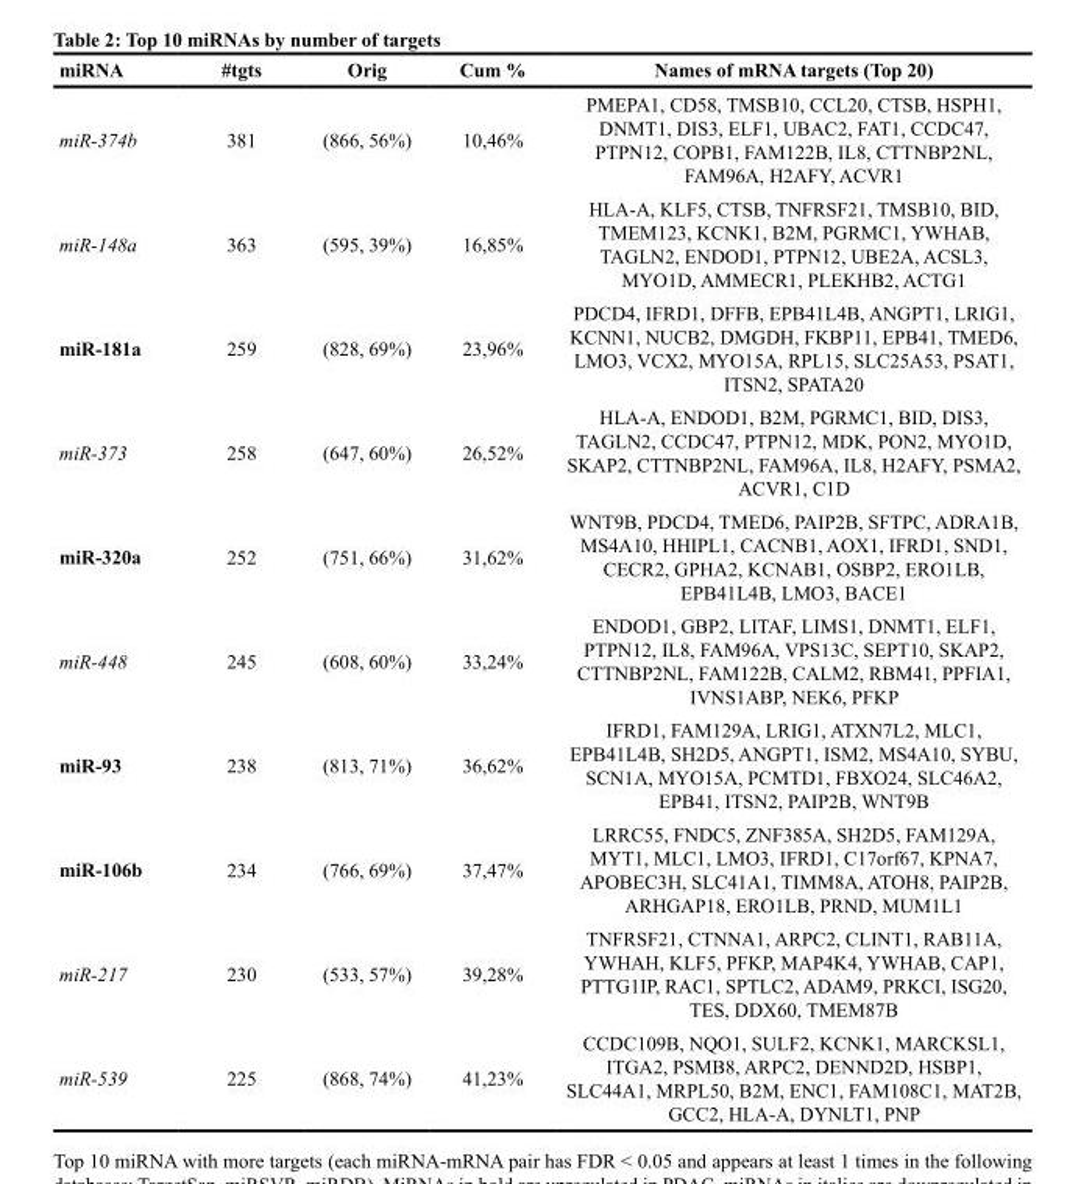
<table><thead><tr><td>miRNA</td><td>#tgts</td><td>Orig</td><td>Cum %</td><td>Names of mRNA targets (Top 20)</td></tr></thead><tbody><tr><td>miR-374b</td><td>381</td><td>(866, 56%)</td><td>10,46%</td><td>PMEPA1, CD58, TMSB10, CCL20, CTSB, HSPH1, DNMT1, DIS3, ELF1, UBAC2, FAT1, CCDC47, PTPN12, COPB1, FAM122B, IL8, CTTNBP2NL, FAM96A, H2AFY, ACVR1</td></tr><tr><td>miR-148a</td><td>363</td><td>(595, 39%)</td><td>16,85%</td><td>HLA-A, KLF5, CTSB, TNFRSF21, TMSB10, BID, TMEM123, KCNK1, B2M, PGRMC1, YWHAB, TAGLN2, ENDOD1, PTPN12, UBE2A, ACSL3, MYO1D, AMMECR1, PLEKHB2, ACTG1</td></tr><tr><td>miR-181a</td><td>259</td><td>(828, 69%)</td><td>23,96%</td><td>PDCD4, IFRD1, DFFB, EPB41L4B, ANGPT1, LRIG1, KCNN1, NUCB2, DMGDH, FKBP11, EPB41, TMED6, LMO3, VCX2, MYO15A, RPL15, SLC25A53, PSAT1, ITSN2, SPATA20</td></tr><tr><td>miR-373</td><td>258</td><td>(647, 60%)</td><td>26,52%</td><td>HLA-A, ENDOD1, B2M, PGRMC1, BID, DIS3, TAGLN2, CCDC47, PTPN12, MDK, PON2, MYO1D, SKAP2, CTTNBP2NL, FAM96A, IL8, H2AFY, PSMA2, ACVR1, C1D</td></tr><tr><td>miR-320a</td><td>252</td><td>(751, 66%)</td><td>31,62%</td><td>WNT9B, PDCD4, TMED6, PAIP2B, SFTPC, ADRA1B, MS4A10, HHIPL1, CACNB1, AOX1, IFRD1, SND1, CECR2, GPHA2, KCNAB1, OSBP2, ERO1LB, EPB41L4B, LMO3, BACE1</td></tr><tr><td>miR-448</td><td>245</td><td>(608, 60%)</td><td>33,24%</td><td>ENDOD1, GBP2, LITAF, LIMS1, DNMT1, ELF1, PTPN12, IL8, FAM96A, VPS13C, SEPT10, SKAP2, CTTNBP2NL, FAM122B, CALM2, RBM41, PPFIA1, IVNS1ABP, NEK6, PFKP</td></tr><tr><td>miR-93</td><td>238</td><td>(813, 71%)</td><td>36,62%</td><td>IFRD1, FAM129A, LRIG1, ATXN7L2, MLC1, EPB41L4B, SH2D5, ANGPT1, ISM2, MS4A10, SYBU, SCN1A, MYO15A, PCMTD1, FBXO24, SLC46A2, EPB41, ITSN2, PAIP2B, WNT9B</td></tr><tr><td>miR-106b</td><td>234</td><td>(766, 69%)</td><td>37,47%</td><td>LRRC55, FNDC5, ZNF385A, SH2D5, FAM129A, MYT1, MLC1, LMO3, IFRD1, C17orf67, KPNA7, APOBEC3H, SLC41A1, TIMM8A, ATOH8, PAIP2B, ARHGAP18, ERO1LB, PRND, MUM1L1</td></tr><tr><td>miR-217</td><td>230</td><td>(533, 57%)</td><td>39,28%</td><td>TNFRSF21, CTNNA1, ARPC2, CLINT1, RAB11A, YWHAH, KLF5, PFKP, MAP4K4, YWHAB, CAP1, PTTG1IP, RAC1, SPTLC2, ADAM9, PRKCI, ISG20, TES, DDX60, TMEM87B</td></tr><tr><td>miR-539</td><td>225</td><td>(868, 74%)</td><td>41,23%</td><td>CCDC109B, NQO1, SULF2, KCNK1, MARCKSL1, ITGA2, PSMB8, ARPC2, DENND2D, HSBP1, SLC44A1, MRPL50, B2M, ENC1, FAM108C1, MAT2B, GCC2, HLA-A, DYNLT1, PNP</td></tr></tbody></table>